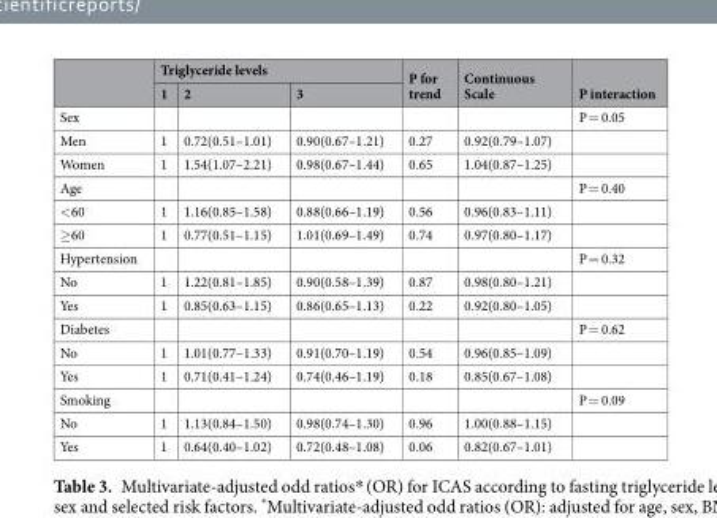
<table><thead><tr><td rowspan="2"></td><td colspan="3">Triglyceride levels</td><td rowspan="2">P for trend</td><td rowspan="2">Continuous Scale</td><td rowspan="2">P interaction</td></tr><tr><td>1</td><td>2</td><td>3</td></tr></thead><tbody><tr><td>Sex</td><td></td><td></td><td></td><td></td><td></td><td>P = 0.05</td></tr><tr><td>Men</td><td>1</td><td>0.72(0.51–1.01)</td><td>0.90(0.67–1.21)</td><td>0.27</td><td>0.92(0.79–1.07)</td><td></td></tr><tr><td>Women</td><td>1</td><td>1.54(1.07–2.21)</td><td>0.98(0.67–1.44)</td><td>0.65</td><td>1.04(0.87–1.25)</td><td></td></tr><tr><td>Age</td><td></td><td></td><td></td><td></td><td></td><td>P = 0.40</td></tr><tr><td>&lt;60</td><td>1</td><td>1.16(0.85–1.58)</td><td>0.88(0.66–1.19)</td><td>0.56</td><td>0.96(0.83–1.11)</td><td></td></tr><tr><td>≥60</td><td>1</td><td>0.77(0.51–1.15)</td><td>1.01(0.69–1.49)</td><td>0.74</td><td>0.97(0.80–1.17)</td><td></td></tr><tr><td>Hypertension</td><td></td><td></td><td></td><td></td><td></td><td>P = 0.32</td></tr><tr><td>No</td><td>1</td><td>1.22(0.81–1.85)</td><td>0.90(0.58–1.39)</td><td>0.87</td><td>0.98(0.80–1.21)</td><td></td></tr><tr><td>Yes</td><td>1</td><td>0.85(0.63–1.15)</td><td>0.86(0.65–1.13)</td><td>0.22</td><td>0.92(0.80–1.05)</td><td></td></tr><tr><td>Diabetes</td><td></td><td></td><td></td><td></td><td></td><td>P = 0.62</td></tr><tr><td>No</td><td>1</td><td>1.01(0.77–1.33)</td><td>0.91(0.70–1.19)</td><td>0.54</td><td>0.96(0.85–1.09)</td><td></td></tr><tr><td>Yes</td><td>1</td><td>0.71(0.41–1.24)</td><td>0.74(0.46–1.19)</td><td>0.18</td><td>0.85(0.67–1.08)</td><td></td></tr><tr><td>Smoking</td><td></td><td></td><td></td><td></td><td></td><td>P = 0.09</td></tr><tr><td>No</td><td>1</td><td>1.13(0.84–1.50)</td><td>0.98(0.74–1.30)</td><td>0.96</td><td>1.00(0.88–1.15)</td><td></td></tr><tr><td>Yes</td><td>1</td><td>0.64(0.40–1.02)</td><td>0.72(0.48–1.08)</td><td>0.06</td><td>0.82(0.67–1.01)</td><td></td></tr></tbody></table>